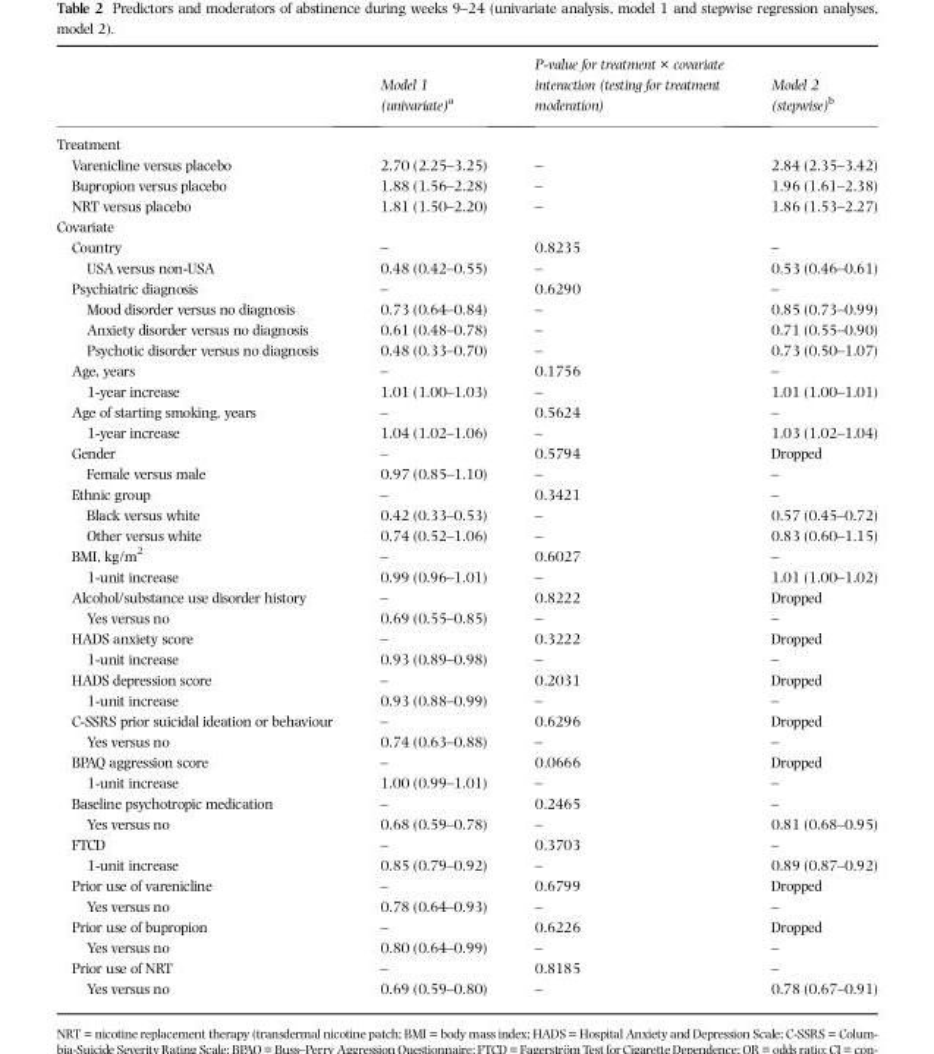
<table><thead><tr><td></td><td>Model 1 (univariate)<sup>a</sup></td><td>P-value for treatment × covariate interaction (testing for treatment moderation)</td><td>Model 2 (stepwise)<sup>b</sup></td></tr></thead><tbody><tr><td colspan="4">Treatment</td></tr><tr><td>Varenicline versus placebo</td><td>2.70 (2.25–3.25)</td><td>–</td><td>2.84 (2.35–3.42)</td></tr><tr><td>Bupropion versus placebo</td><td>1.88 (1.56–2.28)</td><td>–</td><td>1.96 (1.61–2.38)</td></tr><tr><td>NRT versus placebo</td><td>1.81 (1.50–2.20)</td><td>–</td><td>1.86 (1.53–2.27)</td></tr><tr><td colspan="4">Covariate</td></tr><tr><td>Country</td><td>–</td><td>0.8235</td><td>–</td></tr><tr><td>USA versus non-USA</td><td>0.48 (0.42–0.55)</td><td>–</td><td>0.53 (0.46–0.61)</td></tr><tr><td>Psychiatric diagnosis</td><td>–</td><td>0.6290</td><td>–</td></tr><tr><td>Mood disorder versus no diagnosis</td><td>0.73 (0.64–0.84)</td><td>–</td><td>0.85 (0.73–0.99)</td></tr><tr><td>Anxiety disorder versus no diagnosis</td><td>0.61 (0.48–0.78)</td><td>–</td><td>0.71 (0.55–0.90)</td></tr><tr><td>Psychotic disorder versus no diagnosis</td><td>0.48 (0.33–0.70)</td><td>–</td><td>0.73 (0.50–1.07)</td></tr><tr><td>Age, years</td><td>–</td><td>0.1756</td><td>–</td></tr><tr><td>1-year increase</td><td>1.01 (1.00–1.03)</td><td>–</td><td>1.01 (1.00–1.01)</td></tr><tr><td>Age of starting smoking, years</td><td>–</td><td>0.5624</td><td>–</td></tr><tr><td>1-year increase</td><td>1.04 (1.02–1.06)</td><td>–</td><td>1.03 (1.02–1.04)</td></tr><tr><td>Gender</td><td>–</td><td>0.5794</td><td>Dropped</td></tr><tr><td>Female versus male</td><td>0.97 (0.85–1.10)</td><td>–</td><td>–</td></tr><tr><td>Ethnic group</td><td>–</td><td>0.3421</td><td>–</td></tr><tr><td>Black versus white</td><td>0.42 (0.33–0.53)</td><td>–</td><td>0.57 (0.45–0.72)</td></tr><tr><td>Other versus white</td><td>0.74 (0.52–1.06)</td><td>–</td><td>0.83 (0.60–1.15)</td></tr><tr><td>BMI, kg/m<sup>2</sup></td><td>–</td><td>0.6027</td><td>–</td></tr><tr><td>1-unit increase</td><td>0.99 (0.96–1.01)</td><td>–</td><td>1.01 (1.00–1.02)</td></tr><tr><td>Alcohol/substance use disorder history</td><td>–</td><td>0.8222</td><td>Dropped</td></tr><tr><td>Yes versus no</td><td>0.69 (0.55–0.85)</td><td>–</td><td>–</td></tr><tr><td>HADS anxiety score</td><td>–</td><td>0.3222</td><td>Dropped</td></tr><tr><td>1-unit increase</td><td>0.93 (0.89–0.98)</td><td>–</td><td>–</td></tr><tr><td>HADS depression score</td><td>–</td><td>0.2031</td><td>Dropped</td></tr><tr><td>1-unit increase</td><td>0.93 (0.88–0.99)</td><td>–</td><td>–</td></tr><tr><td>C-SSRS prior suicidal ideation or behaviour</td><td>–</td><td>0.6296</td><td>Dropped</td></tr><tr><td>Yes versus no</td><td>0.74 (0.63–0.88)</td><td>–</td><td>–</td></tr><tr><td>BPAQ aggression score</td><td>–</td><td>0.0666</td><td>Dropped</td></tr><tr><td>1-unit increase</td><td>1.00 (0.99–1.01)</td><td>–</td><td>–</td></tr><tr><td>Baseline psychotropic medication</td><td>–</td><td>0.2465</td><td>–</td></tr><tr><td>Yes versus no</td><td>0.68 (0.59–0.78)</td><td>–</td><td>0.81 (0.68–0.95)</td></tr><tr><td>FTCD</td><td>–</td><td>0.3703</td><td>–</td></tr><tr><td>1-unit increase</td><td>0.85 (0.79–0.92)</td><td>–</td><td>0.89 (0.87–0.92)</td></tr><tr><td>Prior use of varenicline</td><td>–</td><td>0.6799</td><td>Dropped</td></tr><tr><td>Yes versus no</td><td>0.78 (0.64–0.93)</td><td>–</td><td>–</td></tr><tr><td>Prior use of bupropion</td><td>–</td><td>0.6226</td><td>Dropped</td></tr><tr><td>Yes versus no</td><td>0.80 (0.64–0.99)</td><td>–</td><td>–</td></tr><tr><td>Prior use of NRT</td><td>–</td><td>0.8185</td><td>–</td></tr><tr><td>Yes versus no</td><td>0.69 (0.59–0.80)</td><td>–</td><td>0.78 (0.67–0.91)</td></tr></tbody></table>